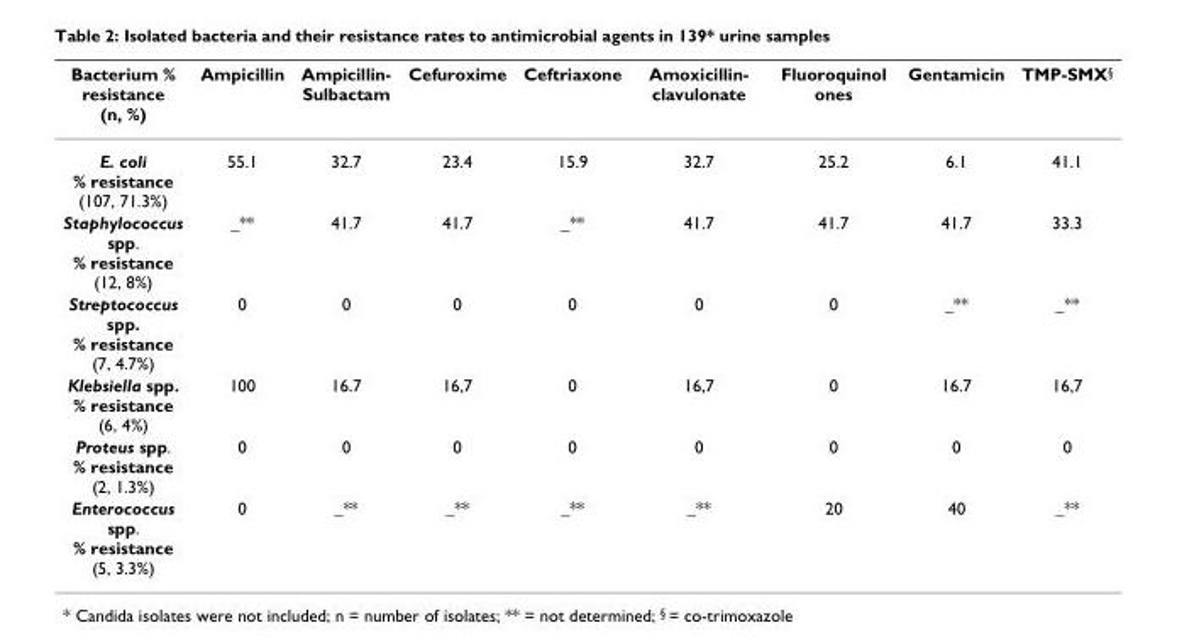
<table><thead><tr><td>Bacterium % resistance (n, %)</td><td>Ampicillin</td><td>Ampicillin- Sulbactam</td><td>Cefuroxime</td><td>Ceftriaxone</td><td>Amoxicillin- clavulonate</td><td>Fluoroquinol ones</td><td>Gentamicin</td><td>TMP-SMX<sup>§</sup></td></tr></thead><tbody><tr><td>E. coli % resistance (107, 71.3%)</td><td>55.1</td><td>32.7</td><td>23.4</td><td>15.9</td><td>32.7</td><td>25.2</td><td>6.1</td><td>41.1</td></tr><tr><td>Staphylococcus spp. % resistance (12, 8%)</td><td>_**</td><td>41.7</td><td>41.7</td><td>_**</td><td>41.7</td><td>41.7</td><td>41.7</td><td>33.3</td></tr><tr><td>Streptococcus spp. % resistance (7, 4.7%)</td><td>0</td><td>0</td><td>0</td><td>0</td><td>0</td><td>0</td><td>_**</td><td>_**</td></tr><tr><td>Klebsiella spp. % resistance (6, 4%)</td><td>100</td><td>16.7</td><td>16,7</td><td>0</td><td>16,7</td><td>0</td><td>16.7</td><td>16,7</td></tr><tr><td>Proteus spp. % resistance (2, 1.3%)</td><td>0</td><td>0</td><td>0</td><td>0</td><td>0</td><td>0</td><td>0</td><td>0</td></tr><tr><td>Enterococcus spp. % resistance (5, 3.3%)</td><td>0</td><td>_**</td><td>_**</td><td>_**</td><td>_**</td><td>20</td><td>40</td><td>_**</td></tr></tbody></table>